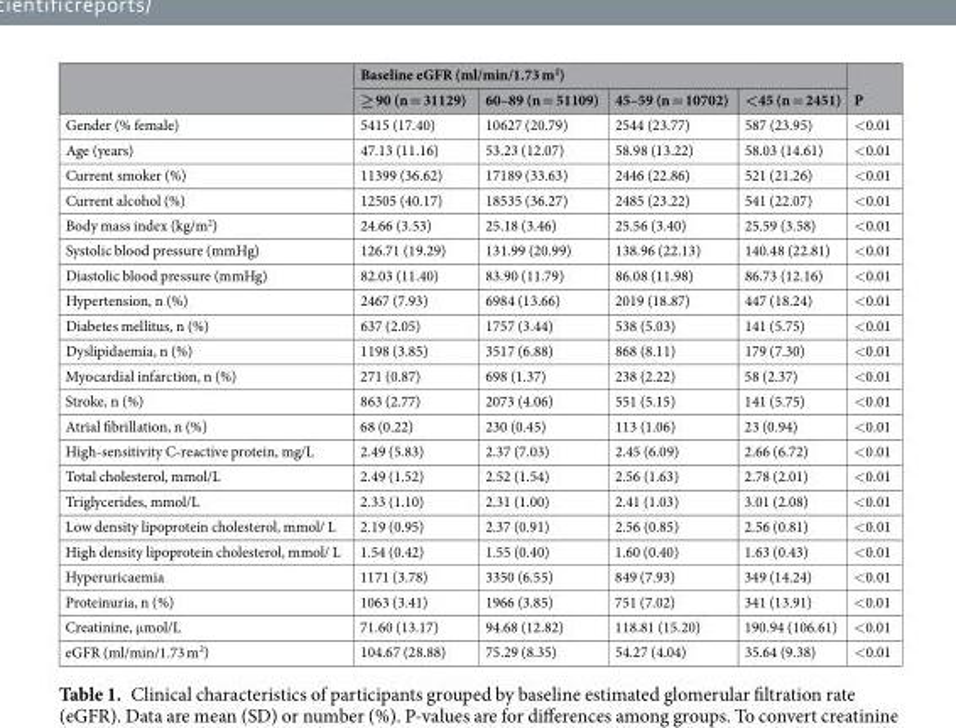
<table><thead><tr><td rowspan="2"></td><td colspan="4">Baseline eGFR (ml/min/1.73 m<sup>2</sup>)</td><td rowspan="2">P</td></tr><tr><td>≥ 90 (n = 31129)</td><td>60–89 (n = 51109)</td><td>45–59 (n = 10702)</td><td>&lt;45 (n = 2451)</td></tr></thead><tbody><tr><td>Gender (% female)</td><td>5415 (17.40)</td><td>10627 (20.79)</td><td>2544 (23.77)</td><td>587 (23.95)</td><td>&lt;0.01</td></tr><tr><td>Age (years)</td><td>47.13 (11.16)</td><td>53.23 (12.07)</td><td>58.98 (13.22)</td><td>58.03 (14.61)</td><td>&lt;0.01</td></tr><tr><td>Current smoker (%)</td><td>11399 (36.62)</td><td>17189 (33.63)</td><td>2446 (22.86)</td><td>521 (21.26)</td><td>&lt;0.01</td></tr><tr><td>Current alcohol (%)</td><td>12505 (40.17)</td><td>18535 (36.27)</td><td>2485 (23.22)</td><td>541 (22.07)</td><td>&lt;0.01</td></tr><tr><td>Body mass index (kg/m<sup>2</sup>)</td><td>24.66 (3.53)</td><td>25.18 (3.46)</td><td>25.56 (3.40)</td><td>25.59 (3.58)</td><td>&lt;0.01</td></tr><tr><td>Systolic blood pressure (mmHg)</td><td>126.71 (19.29)</td><td>131.99 (20.99)</td><td>138.96 (22.13)</td><td>140.48 (22.81)</td><td>&lt;0.01</td></tr><tr><td>Diastolic blood pressure (mmHg)</td><td>82.03 (11.40)</td><td>83.90 (11.79)</td><td>86.08 (11.98)</td><td>86.73 (12.16)</td><td>&lt;0.01</td></tr><tr><td>Hypertension, n (%)</td><td>2467 (7.93)</td><td>6984 (13.66)</td><td>2019 (18.87)</td><td>447 (18.24)</td><td>&lt;0.01</td></tr><tr><td>Diabetes mellitus, n (%)</td><td>637 (2.05)</td><td>1757 (3.44)</td><td>538 (5.03)</td><td>141 (5.75)</td><td>&lt;0.01</td></tr><tr><td>Dyslipidaemia, n (%)</td><td>1198 (3.85)</td><td>3517 (6.88)</td><td>868 (8.11)</td><td>179 (7.30)</td><td>&lt;0.01</td></tr><tr><td>Myocardial infarction, n (%)</td><td>271 (0.87)</td><td>698 (1.37)</td><td>238 (2.22)</td><td>58 (2.37)</td><td>&lt;0.01</td></tr><tr><td>Stroke, n (%)</td><td>863 (2.77)</td><td>2073 (4.06)</td><td>551 (5.15)</td><td>141 (5.75)</td><td>&lt;0.01</td></tr><tr><td>Atrial fibrillation, n (%)</td><td>68 (0.22)</td><td>230 (0.45)</td><td>113 (1.06)</td><td>23 (0.94)</td><td>&lt;0.01</td></tr><tr><td>High-sensitivity C-reactive protein, mg/L</td><td>2.49 (5.83)</td><td>2.37 (7.03)</td><td>2.45 (6.09)</td><td>2.66 (6.72)</td><td>&lt;0.01</td></tr><tr><td>Total cholesterol, mmol/L</td><td>2.49 (1.52)</td><td>2.52 (1.54)</td><td>2.56 (1.63)</td><td>2.78 (2.01)</td><td>&lt;0.01</td></tr><tr><td>Triglycerides, mmol/L</td><td>2.33 (1.10)</td><td>2.31 (1.00)</td><td>2.41 (1.03)</td><td>3.01 (2.08)</td><td>&lt;0.01</td></tr><tr><td>Low density lipoprotein cholesterol, mmol/ L</td><td>2.19 (0.95)</td><td>2.37 (0.91)</td><td>2.56 (0.85)</td><td>2.56 (0.81)</td><td>&lt;0.01</td></tr><tr><td>High density lipoprotein cholesterol, mmol/ L</td><td>1.54 (0.42)</td><td>1.55 (0.40)</td><td>1.60 (0.40)</td><td>1.63 (0.43)</td><td>&lt;0.01</td></tr><tr><td>Hyperuricaemia</td><td>1171 (3.78)</td><td>3350 (6.55)</td><td>849 (7.93)</td><td>349 (14.24)</td><td>&lt;0.01</td></tr><tr><td>Proteinuria, n (%)</td><td>1063 (3.41)</td><td>1966 (3.85)</td><td>751 (7.02)</td><td>341 (13.91)</td><td>&lt;0.01</td></tr><tr><td>Creatinine, μmol/L</td><td>71.60 (13.17)</td><td>94.68 (12.82)</td><td>118.81 (15.20)</td><td>190.94 (106.61)</td><td>&lt;0.01</td></tr><tr><td>eGFR (ml/min/1.73 m<sup>2</sup>)</td><td>104.67 (28.88)</td><td>75.29 (8.35)</td><td>54.27 (4.04)</td><td>35.64 (9.38)</td><td>&lt;0.01</td></tr></tbody></table>